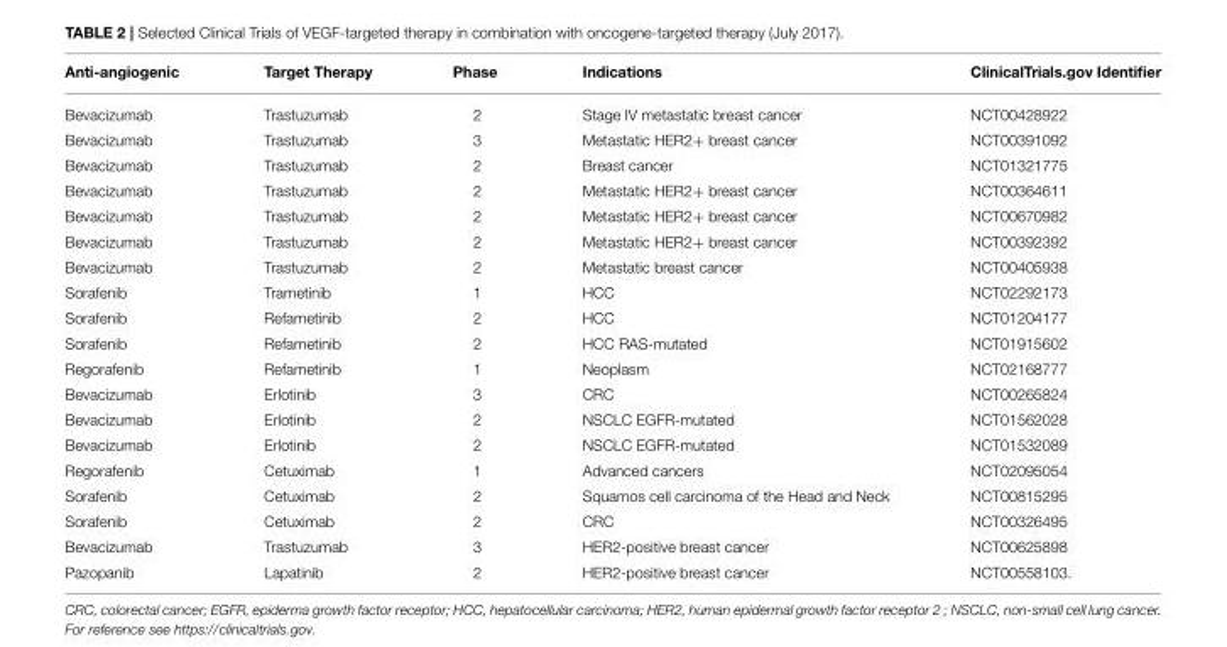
<table><thead><tr><td>Anti-angiogenic</td><td>Target Therapy</td><td>Phase</td><td>Indications</td><td>ClinicalTrials.gov Identifier</td></tr></thead><tbody><tr><td>Bevacizumab</td><td>Trastuzumab</td><td>2</td><td>Stage IV metastatic breast cancer</td><td>NCT00428922</td></tr><tr><td>Bevacizumab</td><td>Trastuzumab</td><td>3</td><td>Metastatic HER2+ breast cancer</td><td>NCT00391092</td></tr><tr><td>Bevacizumab</td><td>Trastuzumab</td><td>2</td><td>Breast cancer</td><td>NCT01321775</td></tr><tr><td>Bevacizumab</td><td>Trastuzumab</td><td>2</td><td>Metastatic HER2+ breast cancer</td><td>NCT00364611</td></tr><tr><td>Bevacizumab</td><td>Trastuzumab</td><td>2</td><td>Metastatic HER2+ breast cancer</td><td>NCT00670982</td></tr><tr><td>Bevacizumab</td><td>Trastuzumab</td><td>2</td><td>Metastatic HER2+ breast cancer</td><td>NCT00392392</td></tr><tr><td>Bevacizumab</td><td>Trastuzumab</td><td>2</td><td>Metastatic breast cancer</td><td>NCT00405938</td></tr><tr><td>Sorafenib</td><td>Trametinib</td><td>1</td><td>HCC</td><td>NCT02292173</td></tr><tr><td>Sorafenib</td><td>Refametinib</td><td>2</td><td>HCC</td><td>NCT01204177</td></tr><tr><td>Sorafenib</td><td>Refametinib</td><td>2</td><td>HCC RAS-mutated</td><td>NCT01915602</td></tr><tr><td>Regorafenib</td><td>Refametinib</td><td>1</td><td>Neoplasm</td><td>NCT02168777</td></tr><tr><td>Bevacizumab</td><td>Erlotinib</td><td>3</td><td>CRC</td><td>NCT00265824</td></tr><tr><td>Bevacizumab</td><td>Erlotinib</td><td>2</td><td>NSCLC EGFR-mutated</td><td>NCT01562028</td></tr><tr><td>Bevacizumab</td><td>Erlotinib</td><td>2</td><td>NSCLC EGFR-mutated</td><td>NCT01532089</td></tr><tr><td>Regorafenib</td><td>Cetuximab</td><td>1</td><td>Advanced cancers</td><td>NCT02095054</td></tr><tr><td>Sorafenib</td><td>Cetuximab</td><td>2</td><td>Squamos cell carcinoma of the Head and Neck</td><td>NCT00815295</td></tr><tr><td>Sorafenib</td><td>Cetuximab</td><td>2</td><td>CRC</td><td>NCT00326495</td></tr><tr><td>Bevacizumab</td><td>Trastuzumab</td><td>3</td><td>HER2-positive breast cancer</td><td>NCT00625898</td></tr><tr><td>Pazopanib</td><td>Lapatinib</td><td>2</td><td>HER2-positive breast cancer</td><td>NCT00558103.</td></tr></tbody></table>